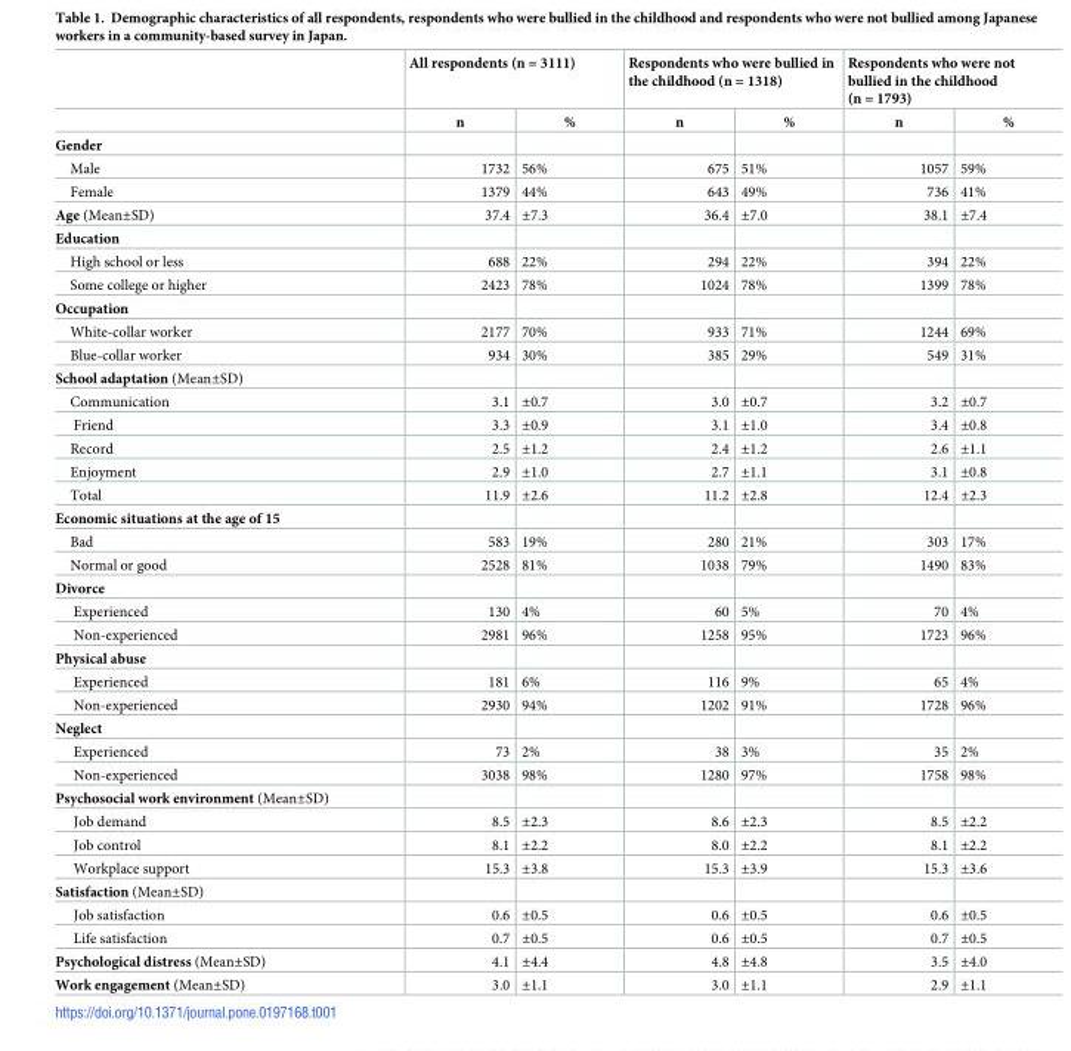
<table><thead><tr><td rowspan="2"></td><td colspan="2">All respondents (n = 3111)</td><td colspan="2">Respondents who were bullied in the childhood (n = 1318)</td><td colspan="2">Respondents who were not bullied in the childhood (n = 1793)</td></tr><tr><td>n</td><td>%</td><td>n</td><td>%</td><td>n</td><td>%</td></tr></thead><tbody><tr><td colspan="7">Gender</td></tr><tr><td>Male</td><td>1732</td><td>56%</td><td>675</td><td>51%</td><td>1057</td><td>59%</td></tr><tr><td>Female</td><td>1379</td><td>44%</td><td>643</td><td>49%</td><td>736</td><td>41%</td></tr><tr><td>Age (Mean±SD)</td><td>37.4</td><td>±7.3</td><td>36.4</td><td>±7.0</td><td>38.1</td><td>±7.4</td></tr><tr><td colspan="7">Education</td></tr><tr><td>High school or less</td><td>688</td><td>22%</td><td>294</td><td>22%</td><td>394</td><td>22%</td></tr><tr><td>Some college or higher</td><td>2423</td><td>78%</td><td>1024</td><td>78%</td><td>1399</td><td>78%</td></tr><tr><td colspan="7">Occupation</td></tr><tr><td>White-collar worker</td><td>2177</td><td>70%</td><td>933</td><td>71%</td><td>1244</td><td>69%</td></tr><tr><td>Blue-collar worker</td><td>934</td><td>30%</td><td>385</td><td>29%</td><td>549</td><td>31%</td></tr><tr><td colspan="7">School adaptation (Mean±SD)</td></tr><tr><td>Communication</td><td>3.1</td><td>±0.7</td><td>3.0</td><td>±0.7</td><td>3.2</td><td>±0.7</td></tr><tr><td>Friend</td><td>3.3</td><td>±0.9</td><td>3.1</td><td>±1.0</td><td>3.4</td><td>±0.8</td></tr><tr><td>Record</td><td>2.5</td><td>±1.2</td><td>2.4</td><td>±1.2</td><td>2.6</td><td>±1.1</td></tr><tr><td>Enjoyment</td><td>2.9</td><td>±1.0</td><td>2.7</td><td>±1.1</td><td>3.1</td><td>±0.8</td></tr><tr><td>Total</td><td>11.9</td><td>±2.6</td><td>11.2</td><td>±2.8</td><td>12.4</td><td>±2.3</td></tr><tr><td colspan="7">Economic situations at the age of 15</td></tr><tr><td>Bad</td><td>583</td><td>19%</td><td>280</td><td>21%</td><td>303</td><td>17%</td></tr><tr><td>Normal or good</td><td>2528</td><td>81%</td><td>1038</td><td>79%</td><td>1490</td><td>83%</td></tr><tr><td colspan="7">Divorce</td></tr><tr><td>Experienced</td><td>130</td><td>4%</td><td>60</td><td>5%</td><td>70</td><td>4%</td></tr><tr><td>Non-experienced</td><td>2981</td><td>96%</td><td>1258</td><td>95%</td><td>1723</td><td>96%</td></tr><tr><td colspan="7">Physical abuse</td></tr><tr><td>Experienced</td><td>181</td><td>6%</td><td>116</td><td>9%</td><td>65</td><td>4%</td></tr><tr><td>Non-experienced</td><td>2930</td><td>94%</td><td>1202</td><td>91%</td><td>1728</td><td>96%</td></tr><tr><td colspan="7">Neglect</td></tr><tr><td>Experienced</td><td>73</td><td>2%</td><td>38</td><td>3%</td><td>35</td><td>2%</td></tr><tr><td>Non-experienced</td><td>3038</td><td>98%</td><td>1280</td><td>97%</td><td>1758</td><td>98%</td></tr><tr><td colspan="7">Psychosocial work environment (Mean±SD)</td></tr><tr><td>Job demand</td><td>8.5</td><td>±2.3</td><td>8.6</td><td>±2.3</td><td>8.5</td><td>±2.2</td></tr><tr><td>Job control</td><td>8.1</td><td>±2.2</td><td>8.0</td><td>±2.2</td><td>8.1</td><td>±2.2</td></tr><tr><td>Workplace support</td><td>15.3</td><td>±3.8</td><td>15.3</td><td>±3.9</td><td>15.3</td><td>±3.6</td></tr><tr><td colspan="7">Satisfaction (Mean±SD)</td></tr><tr><td>Job satisfaction</td><td>0.6</td><td>±0.5</td><td>0.6</td><td>±0.5</td><td>0.6</td><td>±0.5</td></tr><tr><td>Life satisfaction</td><td>0.7</td><td>±0.5</td><td>0.6</td><td>±0.5</td><td>0.7</td><td>±0.5</td></tr><tr><td>Psychological distress (Mean±SD)</td><td>4.1</td><td>±4.4</td><td>4.8</td><td>±4.8</td><td>3.5</td><td>±4.0</td></tr><tr><td>Work engagement (Mean±SD)</td><td>3.0</td><td>±1.1</td><td>3.0</td><td>±1.1</td><td>2.9</td><td>±1.1</td></tr></tbody></table>